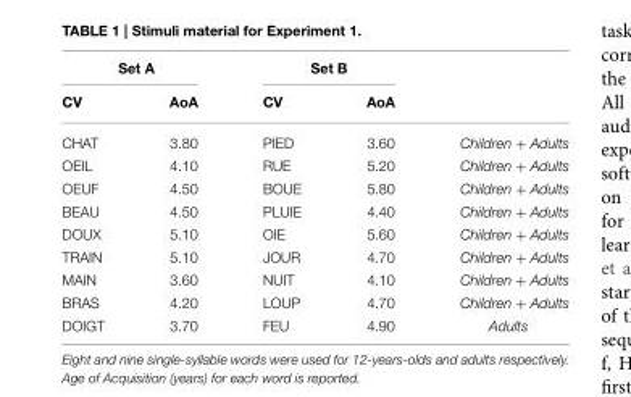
<table><thead><tr><td colspan="2">Set A</td><td colspan="2">Set B</td><td rowspan="2"></td></tr><tr><td>CV</td><td>AoA</td><td>CV</td><td>AoA</td></tr></thead><tbody><tr><td>CHAT</td><td>3.80</td><td>PIED</td><td>3.60</td><td>Children + Adults</td></tr><tr><td>OEIL</td><td>4.10</td><td>RUE</td><td>5.20</td><td>Children + Adults</td></tr><tr><td>OEUF</td><td>4.50</td><td>BOUE</td><td>5.80</td><td>Children + Adults</td></tr><tr><td>BEAU</td><td>4.50</td><td>PLUIE</td><td>4.40</td><td>Children + Adults</td></tr><tr><td>DOUX</td><td>5.10</td><td>OIE</td><td>5.60</td><td>Children + Adults</td></tr><tr><td>TRAIN</td><td>5.10</td><td>JOUR</td><td>4.70</td><td>Children + Adults</td></tr><tr><td>MAIN</td><td>3.60</td><td>NUIT</td><td>4.10</td><td>Children + Adults</td></tr><tr><td>BRAS</td><td>4.20</td><td>LOUP</td><td>4.70</td><td>Children + Adults</td></tr><tr><td>DOIGT</td><td>3.70</td><td>FEU</td><td>4.90</td><td>Adults</td></tr></tbody></table>